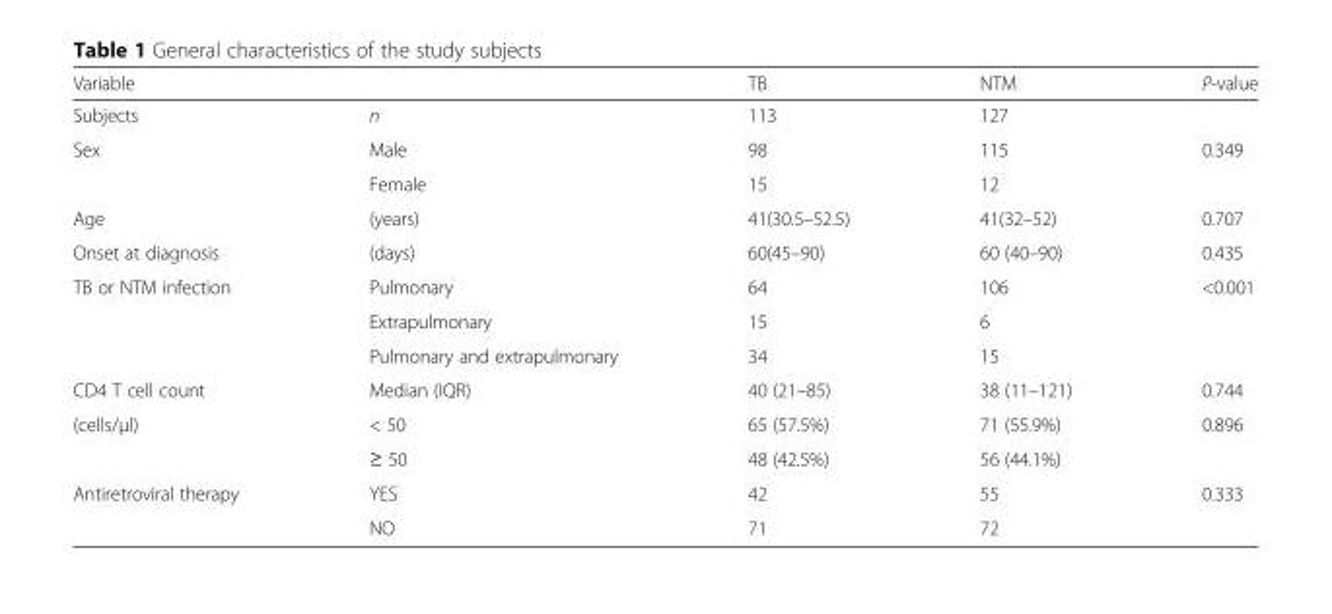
<table><thead><tr><td>Variable</td><td></td><td>TB</td><td>NTM</td><td>P-value</td></tr></thead><tbody><tr><td>Subjects</td><td>n</td><td>113</td><td>127</td><td></td></tr><tr><td rowspan="2">Sex</td><td>Male</td><td>98</td><td>115</td><td rowspan="2">0.349</td></tr><tr><td>Female</td><td>15</td><td>12</td></tr><tr><td>Age</td><td>(years)</td><td>41(30.5–52.5)</td><td>41(32–52)</td><td>0.707</td></tr><tr><td>Onset at diagnosis</td><td>(days)</td><td>60(45–90)</td><td>60 (40–90)</td><td>0.435</td></tr><tr><td rowspan="3">TB or NTM infection</td><td>Pulmonary</td><td>64</td><td>106</td><td rowspan="3">&lt;0.001</td></tr><tr><td>Extrapulmonary</td><td>15</td><td>6</td></tr><tr><td>Pulmonary and extrapulmonary</td><td>34</td><td>15</td></tr><tr><td>CD4 T cell count</td><td>Median (IQR)</td><td>40 (21–85)</td><td>38 (11–121)</td><td>0.744</td></tr><tr><td rowspan="2">(cells/μl)</td><td>&lt; 50</td><td>65 (57.5%)</td><td>71 (55.9%)</td><td rowspan="2">0.896</td></tr><tr><td>≥ 50</td><td>48 (42.5%)</td><td>56 (44.1%)</td></tr><tr><td rowspan="2">Antiretroviral therapy</td><td>YES</td><td>42</td><td>55</td><td rowspan="2">0.333</td></tr><tr><td>NO</td><td>71</td><td>72</td></tr></tbody></table>